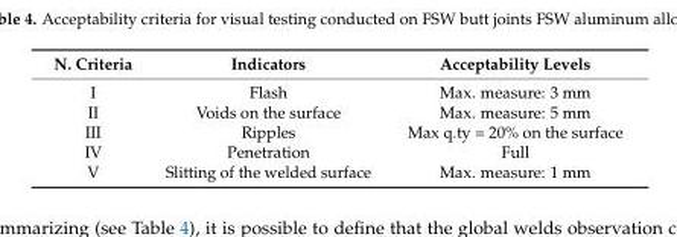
<table><thead><tr><td>N. Criteria</td><td>Indicators</td><td>Acceptability Levels</td></tr></thead><tbody><tr><td>I</td><td>Flash</td><td>Max. measure: 3 mm</td></tr><tr><td>II</td><td>Voids on the surface</td><td>Max. measure: 5 mm</td></tr><tr><td>III</td><td>Ripples</td><td>Max q.ty = 20% on the surface</td></tr><tr><td>IV</td><td>Penetration</td><td>Full</td></tr><tr><td>V</td><td>Slitting of the welded surface</td><td>Max. measure: 1 mm</td></tr></tbody></table>